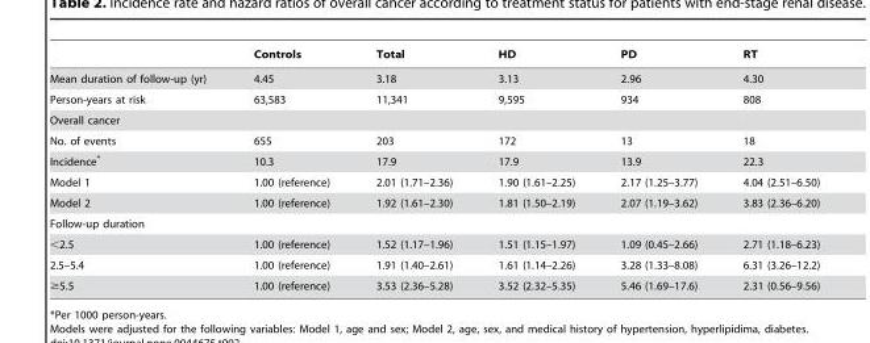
<table><thead><tr><td></td><td>Controls</td><td>Total</td><td>HD</td><td>PD</td><td>RT</td></tr></thead><tbody><tr><td>Mean duration of follow-up (yr)</td><td>4.45</td><td>3.18</td><td>3.13</td><td>2.96</td><td>4.30</td></tr><tr><td>Person-years at risk</td><td>63,583</td><td>11,341</td><td>9,595</td><td>934</td><td>808</td></tr><tr><td colspan="6">Overall cancer</td></tr><tr><td>No. of events</td><td>655</td><td>203</td><td>172</td><td>13</td><td>18</td></tr><tr><td>Incidence*</td><td>10.3</td><td>17.9</td><td>17.9</td><td>13.9</td><td>22.3</td></tr><tr><td>Model 1</td><td>1.00 (reference)</td><td>2.01 (1.71–2.36)</td><td>1.90 (1.61–2.25)</td><td>2.17 (1.25–3.77)</td><td>4.04 (2.51–6.50)</td></tr><tr><td>Model 2</td><td>1.00 (reference)</td><td>1.92 (1.61–2.30)</td><td>1.81 (1.50–2.19)</td><td>2.07 (1.19–3.62)</td><td>3.83 (2.36–6.20)</td></tr><tr><td colspan="6">Follow-up duration</td></tr><tr><td>&lt;2.5</td><td>1.00 (reference)</td><td>1.52 (1.17–1.96)</td><td>1.51 (1.15–1.97)</td><td>1.09 (0.45–2.66)</td><td>2.71 (1.18–6.23)</td></tr><tr><td>2.5–5.4</td><td>1.00 (reference)</td><td>1.91 (1.40–2.61)</td><td>1.61 (1.14–2.26)</td><td>3.28 (1.33–8.08)</td><td>6.31 (3.26–12.2)</td></tr><tr><td>≥5.5</td><td>1.00 (reference)</td><td>3.53 (2.36–5.28)</td><td>3.52 (2.32–5.35)</td><td>5.46 (1.69–17.6)</td><td>2.31 (0.56–9.56)</td></tr></tbody></table>